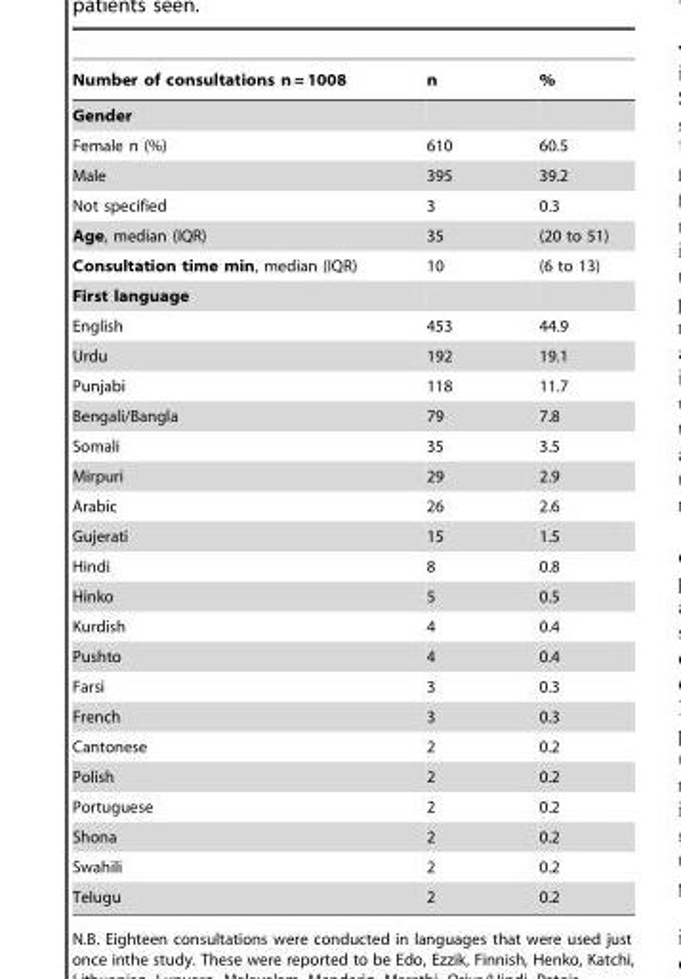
<table><thead><tr><td>Number of consultations n = 1008</td><td>n</td><td>%</td></tr></thead><tbody><tr><td colspan="3">Gender</td></tr><tr><td>Female n (%)</td><td>610</td><td>60.5</td></tr><tr><td>Male</td><td>395</td><td>39.2</td></tr><tr><td>Not specified</td><td>3</td><td>0.3</td></tr><tr><td>Age, median (IQR)</td><td>35</td><td>(20 to 51)</td></tr><tr><td>Consultation time min, median (IQR)</td><td>10</td><td>(6 to 13)</td></tr><tr><td colspan="3">First language</td></tr><tr><td>English</td><td>453</td><td>44.9</td></tr><tr><td>Urdu</td><td>192</td><td>19.1</td></tr><tr><td>Punjabi</td><td>118</td><td>11.7</td></tr><tr><td>Bengali/Bangla</td><td>79</td><td>7.8</td></tr><tr><td>Somali</td><td>35</td><td>3.5</td></tr><tr><td>Mirpuri</td><td>29</td><td>2.9</td></tr><tr><td>Arabic</td><td>26</td><td>2.6</td></tr><tr><td>Gujerati</td><td>15</td><td>1.5</td></tr><tr><td>Hindi</td><td>8</td><td>0.8</td></tr><tr><td>Hinko</td><td>5</td><td>0.5</td></tr><tr><td>Kurdish</td><td>4</td><td>0.4</td></tr><tr><td>Pushto</td><td>4</td><td>0.4</td></tr><tr><td>Farsi</td><td>3</td><td>0.3</td></tr><tr><td>French</td><td>3</td><td>0.3</td></tr><tr><td>Cantonese</td><td>2</td><td>0.2</td></tr><tr><td>Polish</td><td>2</td><td>0.2</td></tr><tr><td>Portuguese</td><td>2</td><td>0.2</td></tr><tr><td>Shona</td><td>2</td><td>0.2</td></tr><tr><td>Swahili</td><td>2</td><td>0.2</td></tr><tr><td>Telugu</td><td>2</td><td>0.2</td></tr></tbody></table>